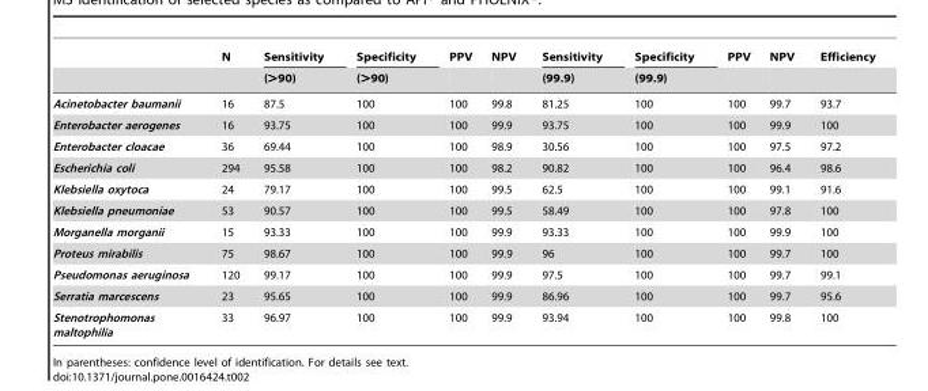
<table><thead><tr><td rowspan="2"></td><td rowspan="2">N</td><td rowspan="2">Sensitivity (&gt;90)</td><td rowspan="2">Specificity (&gt;90)</td><td rowspan="2">PPV</td><td rowspan="2">NPV</td><td rowspan="2">Sensitivity (99.9)</td><td rowspan="2">Specificity (99.9)</td><td rowspan="2">PPV</td><td rowspan="2">NPV</td><td rowspan="2">Efficiency</td></tr><tr></tr></thead><tbody><tr><td>Acinetobacter baumanii</td><td>16</td><td>87.5</td><td>100</td><td>100</td><td>99.8</td><td>81.25</td><td>100</td><td>100</td><td>99.7</td><td>93.7</td></tr><tr><td>Enterobacter aerogenes</td><td>16</td><td>93.75</td><td>100</td><td>100</td><td>99.9</td><td>93.75</td><td>100</td><td>100</td><td>99.9</td><td>100</td></tr><tr><td>Enterobacter cloacae</td><td>36</td><td>69.44</td><td>100</td><td>100</td><td>98.9</td><td>30.56</td><td>100</td><td>100</td><td>97.5</td><td>97.2</td></tr><tr><td>Escherichia coli</td><td>294</td><td>95.58</td><td>100</td><td>100</td><td>98.2</td><td>90.82</td><td>100</td><td>100</td><td>96.4</td><td>98.6</td></tr><tr><td>Klebsiella oxytoca</td><td>24</td><td>79.17</td><td>100</td><td>100</td><td>99.5</td><td>62.5</td><td>100</td><td>100</td><td>99.1</td><td>91.6</td></tr><tr><td>Klebsiella pneumoniae</td><td>53</td><td>90.57</td><td>100</td><td>100</td><td>99.5</td><td>58.49</td><td>100</td><td>100</td><td>97.8</td><td>100</td></tr><tr><td>Morganella morganii</td><td>15</td><td>93.33</td><td>100</td><td>100</td><td>99.9</td><td>93.33</td><td>100</td><td>100</td><td>99.9</td><td>100</td></tr><tr><td>Proteus mirabilis</td><td>75</td><td>98.67</td><td>100</td><td>100</td><td>99.9</td><td>96</td><td>100</td><td>100</td><td>99.7</td><td>100</td></tr><tr><td>Pseudomonas aeruginosa</td><td>120</td><td>99.17</td><td>100</td><td>100</td><td>99.9</td><td>97.5</td><td>100</td><td>100</td><td>99.7</td><td>99.1</td></tr><tr><td>Serratia marcescens</td><td>23</td><td>95.65</td><td>100</td><td>100</td><td>99.9</td><td>86.96</td><td>100</td><td>100</td><td>99.7</td><td>95.6</td></tr><tr><td>Stenotrophomonas maltophilia</td><td>33</td><td>96.97</td><td>100</td><td>100</td><td>99.9</td><td>93.94</td><td>100</td><td>100</td><td>99.8</td><td>100</td></tr></tbody></table>